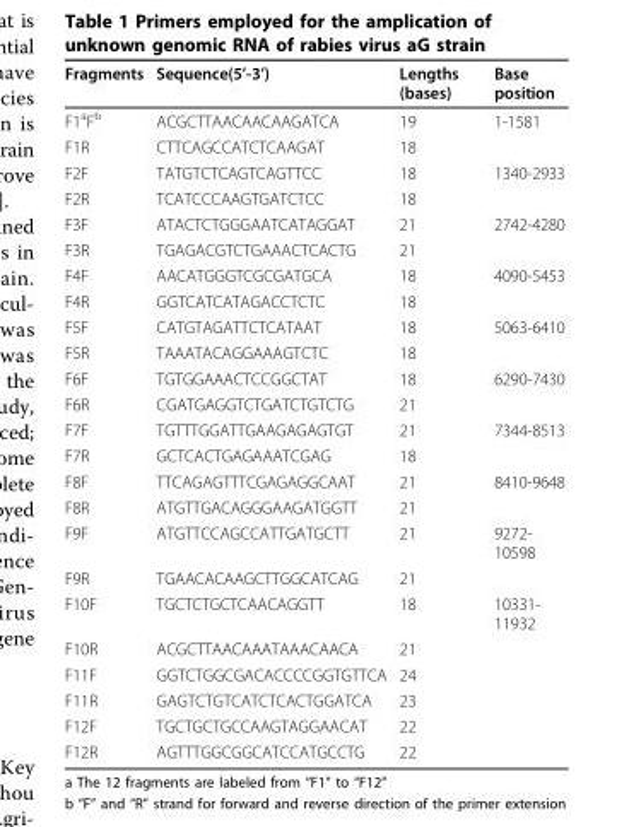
<table><thead><tr><td>Fragments</td><td>Sequence(5’-3’)</td><td>Lengths (bases)</td><td>Base position</td></tr></thead><tbody><tr><td>F1<sup>a</sup>F<sup>b</sup></td><td>ACGCTTAACAACAAGATCA</td><td>19</td><td>1-1581</td></tr><tr><td>F1R</td><td>CTTCAGCCATCTCAAGAT</td><td>18</td><td></td></tr><tr><td>F2F</td><td>TATGTCTCAGTCAGTTCC</td><td>18</td><td>1340-2933</td></tr><tr><td>F2R</td><td>TCATCCCAAGTGATCTCC</td><td>18</td><td></td></tr><tr><td>F3F</td><td>ATACTCTGGGAATCATAGGAT</td><td>21</td><td>2742-4280</td></tr><tr><td>F3R</td><td>TGAGACGTCTGAAACTCACTG</td><td>21</td><td></td></tr><tr><td>F4F</td><td>AACATGGGTCGCGATGCA</td><td>18</td><td>4090-5453</td></tr><tr><td>F4R</td><td>GGTCATCATAGACCTCTC</td><td>18</td><td></td></tr><tr><td>F5F</td><td>CATGTAGATTCTCATAAT</td><td>18</td><td>5063-6410</td></tr><tr><td>F5R</td><td>TAAATACAGGAAAGTCTC</td><td>18</td><td></td></tr><tr><td>F6F</td><td>TGTGGAAACTCCGGCTAT</td><td>18</td><td>6290-7430</td></tr><tr><td>F6R</td><td>CGATGAGGTCTGATCTGTCTG</td><td>21</td><td></td></tr><tr><td>F7F</td><td>TGTTTGGATTGAAGAGAGTGT</td><td>21</td><td>7344-8513</td></tr><tr><td>F7R</td><td>GCTCACTGAGAAATCGAG</td><td>18</td><td></td></tr><tr><td>F8F</td><td>TTCAGAGTTTCGAGAGGCAAT</td><td>21</td><td>8410-9648</td></tr><tr><td>F8R</td><td>ATGTTGACAGGGAAGATGGTT</td><td>21</td><td></td></tr><tr><td>F9F</td><td>ATGTTCCAGCCATTGATGCTT</td><td>21</td><td>9272- 10598</td></tr><tr><td>F9R</td><td>TGAACACAAGCTTGGCATCAG</td><td>21</td><td></td></tr><tr><td>F10F</td><td>TGCTCTGCTCAACAGGTT</td><td>18</td><td>10331- 11932</td></tr><tr><td>F10R</td><td>ACGCTTAACAAATAAACAACA</td><td>21</td><td></td></tr><tr><td>F11F</td><td>GGTCTGGCGACACCCCGGTGTTCA</td><td>24</td><td></td></tr><tr><td>F11R</td><td>GAGTCTGTCATCTCACTGGATCA</td><td>23</td><td></td></tr><tr><td>F12F</td><td>TGCTGCTGCCAAGTAGGAACAT</td><td>22</td><td></td></tr><tr><td>F12R</td><td>AGTTTGGCGGCATCCATGCCTG</td><td>22</td><td></td></tr></tbody></table>